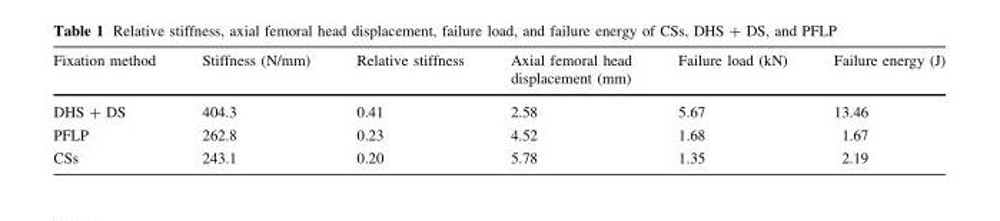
<table><thead><tr><td>Fixation method</td><td>Stiffness (N/mm)</td><td>Relative stiffness</td><td>Axial femoral head displacement (mm)</td><td>Failure load (kN)</td><td>Failure energy (J)</td></tr></thead><tbody><tr><td>DHS + DS</td><td>404.3</td><td>0.41</td><td>2.58</td><td>5.67</td><td>13.46</td></tr><tr><td>PFLP</td><td>262.8</td><td>0.23</td><td>4.52</td><td>1.68</td><td>1.67</td></tr><tr><td>CSs</td><td>243.1</td><td>0.20</td><td>5.78</td><td>1.35</td><td>2.19</td></tr></tbody></table>